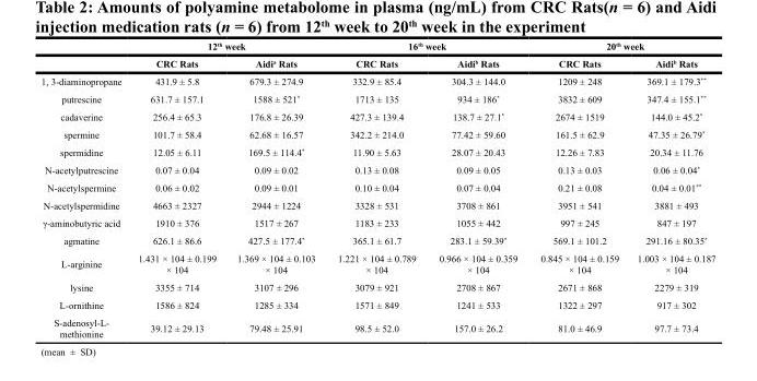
<table><thead><tr><td rowspan="2"></td><td colspan="2">12<sup>th</sup> week</td><td colspan="2">16<sup>th</sup> week</td><td colspan="2">20<sup>th</sup> week</td></tr><tr><td>CRC Rats</td><td>Aidi<sup>a</sup> Rats</td><td>CRC Rats</td><td>Aidi<sup>b</sup> Rats</td><td>CRC Rats</td><td>Aidi<sup>b</sup> Rats</td></tr></thead><tbody><tr><td>1, 3-diaminopropane</td><td>431.9 ± 5.8</td><td>679.3 ± 274.9</td><td>332.9 ± 85.4</td><td>304.3 ± 144.0</td><td>1209 ± 248</td><td>369.1 ± 179.3**</td></tr><tr><td>putrescine</td><td>631.7 ± 157.1</td><td>1588 ± 521*</td><td>1713 ± 135</td><td>934 ± 186*</td><td>3832 ± 609</td><td>347.4 ± 155.1**</td></tr><tr><td>cadaverine</td><td>256.4 ± 65.3</td><td>176.8 ± 26.39</td><td>427.3 ± 139.4</td><td>138.7 ± 27.1*</td><td>2674 ± 1519</td><td>144.0 ± 45.2*</td></tr><tr><td>spermine</td><td>101.7 ± 58.4</td><td>62.68 ± 16.57</td><td>342.2 ± 214.0</td><td>77.42 ± 59.60</td><td>161.5 ± 62.9</td><td>47.35 ± 26.79*</td></tr><tr><td>spermidine</td><td>12.05 ± 6.11</td><td>169.5 ± 114.4*</td><td>11.90 ± 5.63</td><td>28.07 ± 20.43</td><td>12.26 ± 7.83</td><td>20.34 ± 11.76</td></tr><tr><td>N-acetylputrescine</td><td>0.07 ± 0.04</td><td>0.09 ± 0.02</td><td>0.13 ± 0.08</td><td>0.09 ± 0.05</td><td>0.13 ± 0.03</td><td>0.06 ± 0.04*</td></tr><tr><td>N-acetylspermine</td><td>0.06 ± 0.02</td><td>0.09 ± 0.01</td><td>0.10 ± 0.04</td><td>0.07 ± 0.04</td><td>0.21 ± 0.08</td><td>0.04 ± 0.01**</td></tr><tr><td>N-acetylspermidine</td><td>4663 ± 2327</td><td>2944 ± 1224</td><td>3328 ± 531</td><td>3708 ± 861</td><td>3951 ± 541</td><td>3881 ± 493</td></tr><tr><td>γ-aminobutyric acid</td><td>1910 ± 376</td><td>1517 ± 267</td><td>1183 ± 233</td><td>1055 ± 442</td><td>997 ± 245</td><td>847 ± 197</td></tr><tr><td>agmatine</td><td>626.1 ± 86.6</td><td>427.5 ± 177.4*</td><td>365.1 ± 61.7</td><td>283.1 ± 59.39*</td><td>569.1 ± 101.2</td><td>291.16 ± 80.35*</td></tr><tr><td>L-arginine</td><td>1.431 × 104 ± 0.199 × 104</td><td>1.369 × 104 ± 0.103 × 104</td><td>1.221 × 104 ± 0.789 × 104</td><td>0.966 × 104 ± 0.359 × 104</td><td>0.845 × 104 ± 0.159 × 104</td><td>1.003 × 104 ± 0.187 × 104</td></tr><tr><td>lysine</td><td>3355 ± 714</td><td>3107 ± 296</td><td>3079 ± 921</td><td>2708 ± 867</td><td>2671 ± 868</td><td>2279 ± 319</td></tr><tr><td>L-ornithine</td><td>1586 ± 824</td><td>1285 ± 334</td><td>1571 ± 849</td><td>1241 ± 533</td><td>1322 ± 297</td><td>917 ± 302</td></tr><tr><td>S-adenosyl-L- methionine</td><td>39.12 ± 29.13</td><td>79.48 ± 25.91</td><td>98.5 ± 52.0</td><td>157.0 ± 26.2</td><td>81.0 ± 46.9</td><td>97.7 ± 73.4</td></tr></tbody></table>